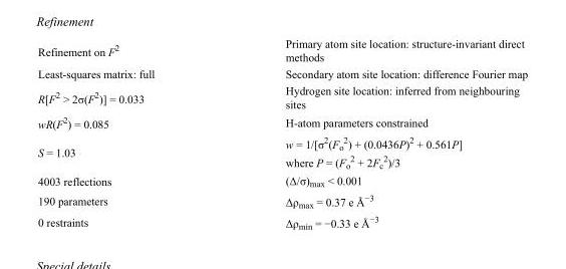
<table><tbody><tr><td>Refinement on F<sup>2</sup></td><td>Primary atom site location: structure-invariant direct methods</td></tr><tr><td>Least-squares matrix: full</td><td>Secondary atom site location: difference Fourier map</td></tr><tr><td>R[F<sup>2</sup> &gt; 2σ(F<sup>2</sup>)] = 0.033</td><td>Hydrogen site location: inferred from neighbouring sites</td></tr><tr><td>wR(F<sup>2</sup>) = 0.085</td><td>H-atom parameters constrained</td></tr><tr><td>S = 1.03</td><td>w = 1/[σ<sup>2</sup>(F<sub>o</sub> <sup>2</sup>) + (0.0436P)<sup>2</sup> + 0.561P] where P = (F<sub>o</sub> <sup>2</sup> + 2F<sub>c</sub> <sup>2</sup>)/3</td></tr><tr><td>4003 reflections</td><td>(Δ/σ)<sub>max</sub> &lt; 0.001</td></tr><tr><td>190 parameters</td><td>Δρ<sub>max</sub> = 0.37 e Å<sup>−3</sup></td></tr><tr><td>0 restraints</td><td>Δρ<sub>min</sub> = −0.33 e Å<sup>−3</sup></td></tr></tbody></table>